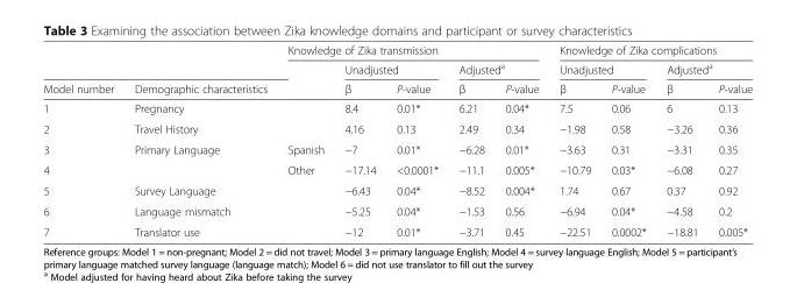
<table><thead><tr><td rowspan="3">Model number</td><td rowspan="3">Demographic characteristics</td><td colspan="5">Knowledge of Zika transmission</td><td colspan="4">Knowledge of Zika complications</td></tr><tr><td rowspan="2"></td><td colspan="2">Unadjusted</td><td colspan="2">Adjusted<sup>a</sup></td><td colspan="2">Unadjusted</td><td colspan="2">Adjusted<sup>a</sup></td></tr><tr><td>β</td><td>P-value</td><td>β</td><td>P-value</td><td>β</td><td>P-value</td><td>β</td><td>P-value</td></tr></thead><tbody><tr><td>1</td><td>Pregnancy</td><td></td><td>8.4</td><td>0.01*</td><td>6.21</td><td>0.04*</td><td>7.5</td><td>0.06</td><td>6</td><td>0.13</td></tr><tr><td>2</td><td>Travel History</td><td></td><td>4.16</td><td>0.13</td><td>2.49</td><td>0.34</td><td>−1.98</td><td>0.58</td><td>−3.26</td><td>0.36</td></tr><tr><td>3</td><td rowspan="2">Primary Language</td><td>Spanish</td><td>−7</td><td>0.01*</td><td>−6.28</td><td>0.01*</td><td>−3.63</td><td>0.31</td><td>−3.31</td><td>0.35</td></tr><tr><td>4</td><td>Other</td><td>−17.14</td><td>&lt;0.0001*</td><td>−11.1</td><td>0.005*</td><td>−10.79</td><td>0.03*</td><td>−6.08</td><td>0.27</td></tr><tr><td>5</td><td>Survey Language</td><td></td><td>−6.43</td><td>0.04*</td><td>−8.52</td><td>0.004*</td><td>1.74</td><td>0.67</td><td>0.37</td><td>0.92</td></tr><tr><td>6</td><td>Language mismatch</td><td></td><td>−5.25</td><td>0.04*</td><td>−1.53</td><td>0.56</td><td>−6.94</td><td>0.04*</td><td>−4.58</td><td>0.2</td></tr><tr><td>7</td><td>Translator use</td><td></td><td>−12</td><td>0.01*</td><td>−3.71</td><td>0.45</td><td>−22.51</td><td>0.0002*</td><td>−18.81</td><td>0.005*</td></tr></tbody></table>